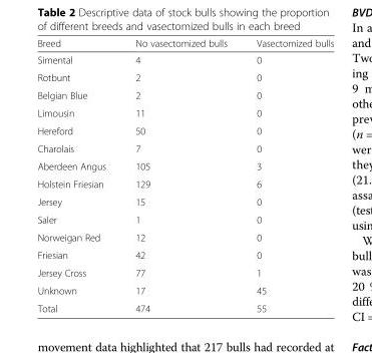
<table><thead><tr><td>Breed</td><td>No vasectomized bulls</td><td>Vasectomized bulls</td></tr></thead><tbody><tr><td>Simental</td><td>4</td><td>0</td></tr><tr><td>Rotbunt</td><td>2</td><td>0</td></tr><tr><td>Belgian Blue</td><td>2</td><td>0</td></tr><tr><td>Limousin</td><td>11</td><td>0</td></tr><tr><td>Hereford</td><td>50</td><td>0</td></tr><tr><td>Charolais</td><td>7</td><td>0</td></tr><tr><td>Aberdeen Angus</td><td>105</td><td>3</td></tr><tr><td>Holstein Friesian</td><td>129</td><td>6</td></tr><tr><td>Jersey</td><td>15</td><td>0</td></tr><tr><td>Saler</td><td>1</td><td>0</td></tr><tr><td>Norweigan Red</td><td>12</td><td>0</td></tr><tr><td>Friesian</td><td>42</td><td>0</td></tr><tr><td>Jersey Cross</td><td>77</td><td>1</td></tr><tr><td>Unknown</td><td>17</td><td>45</td></tr><tr><td>Total</td><td>474</td><td>55</td></tr></tbody></table>